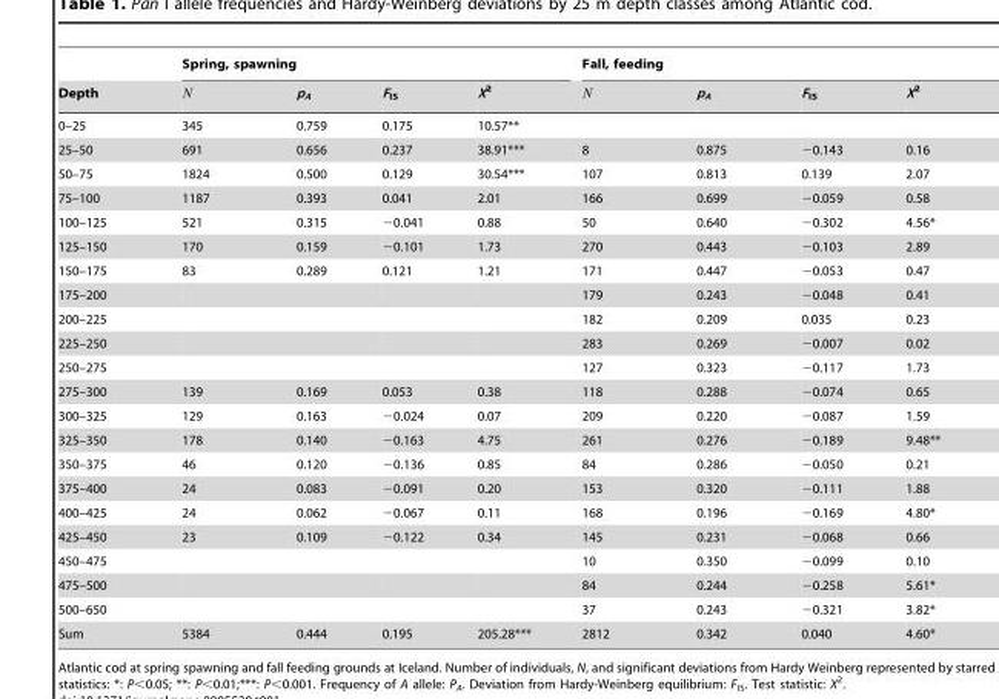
<table><thead><tr><td rowspan="2">Depth</td><td colspan="4">Spring, spawning</td><td colspan="4">Fall, feeding</td></tr><tr><td>N</td><td>p<sub>A</sub></td><td>F<sub>IS</sub></td><td>X<sup>2</sup></td><td>N</td><td>p<sub>A</sub></td><td>F<sub>IS</sub></td><td>X<sup>2</sup></td></tr></thead><tbody><tr><td>0–25</td><td>345</td><td>0.759</td><td>0.175</td><td>10.57**</td><td></td><td></td><td></td><td></td></tr><tr><td>25–50</td><td>691</td><td>0.656</td><td>0.237</td><td>38.91***</td><td>8</td><td>0.875</td><td>−0.143</td><td>0.16</td></tr><tr><td>50–75</td><td>1824</td><td>0.500</td><td>0.129</td><td>30.54***</td><td>107</td><td>0.813</td><td>0.139</td><td>2.07</td></tr><tr><td>75–100</td><td>1187</td><td>0.393</td><td>0.041</td><td>2.01</td><td>166</td><td>0.699</td><td>−0.059</td><td>0.58</td></tr><tr><td>100–125</td><td>521</td><td>0.315</td><td>−0.041</td><td>0.88</td><td>50</td><td>0.640</td><td>−0.302</td><td>4.56*</td></tr><tr><td>125–150</td><td>170</td><td>0.159</td><td>−0.101</td><td>1.73</td><td>270</td><td>0.443</td><td>−0.103</td><td>2.89</td></tr><tr><td>150–175</td><td>83</td><td>0.289</td><td>0.121</td><td>1.21</td><td>171</td><td>0.447</td><td>−0.053</td><td>0.47</td></tr><tr><td>175–200</td><td></td><td></td><td></td><td></td><td>179</td><td>0.243</td><td>−0.048</td><td>0.41</td></tr><tr><td>200–225</td><td></td><td></td><td></td><td></td><td>182</td><td>0.209</td><td>0.035</td><td>0.23</td></tr><tr><td>225–250</td><td></td><td></td><td></td><td></td><td>283</td><td>0.269</td><td>−0.007</td><td>0.02</td></tr><tr><td>250–275</td><td></td><td></td><td></td><td></td><td>127</td><td>0.323</td><td>−0.117</td><td>1.73</td></tr><tr><td>275–300</td><td>139</td><td>0.169</td><td>0.053</td><td>0.38</td><td>118</td><td>0.288</td><td>−0.074</td><td>0.65</td></tr><tr><td>300–325</td><td>129</td><td>0.163</td><td>−0.024</td><td>0.07</td><td>209</td><td>0.220</td><td>−0.087</td><td>1.59</td></tr><tr><td>325–350</td><td>178</td><td>0.140</td><td>−0.163</td><td>4.75</td><td>261</td><td>0.276</td><td>−0.189</td><td>9.48**</td></tr><tr><td>350–375</td><td>46</td><td>0.120</td><td>−0.136</td><td>0.85</td><td>84</td><td>0.286</td><td>−0.050</td><td>0.21</td></tr><tr><td>375–400</td><td>24</td><td>0.083</td><td>−0.091</td><td>0.20</td><td>153</td><td>0.320</td><td>−0.111</td><td>1.88</td></tr><tr><td>400–425</td><td>24</td><td>0.062</td><td>−0.067</td><td>0.11</td><td>168</td><td>0.196</td><td>−0.169</td><td>4.80*</td></tr><tr><td>425–450</td><td>23</td><td>0.109</td><td>−0.122</td><td>0.34</td><td>145</td><td>0.231</td><td>−0.068</td><td>0.66</td></tr><tr><td>450–475</td><td></td><td></td><td></td><td></td><td>10</td><td>0.350</td><td>−0.099</td><td>0.10</td></tr><tr><td>475–500</td><td></td><td></td><td></td><td></td><td>84</td><td>0.244</td><td>−0.258</td><td>5.61*</td></tr><tr><td>500–650</td><td></td><td></td><td></td><td></td><td>37</td><td>0.243</td><td>−0.321</td><td>3.82*</td></tr><tr><td>Sum</td><td>5384</td><td>0.444</td><td>0.195</td><td>205.28***</td><td>2812</td><td>0.342</td><td>0.040</td><td>4.60*</td></tr></tbody></table>